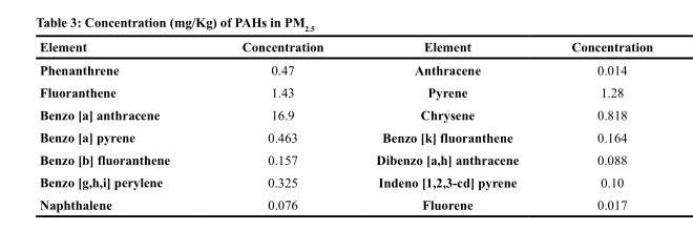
<table><thead><tr><td>Element</td><td>Concentration</td><td>Element</td><td>Concentration</td></tr></thead><tbody><tr><td>Phenanthrene</td><td>0.47</td><td>Anthracene</td><td>0.014</td></tr><tr><td>Fluoranthene</td><td>1.43</td><td>Pyrene</td><td>1.28</td></tr><tr><td>Benzo [a] anthracene</td><td>16.9</td><td>Chrysene</td><td>0.818</td></tr><tr><td>Benzo [a] pyrene</td><td>0.463</td><td>Benzo [k] fluoranthene</td><td>0.164</td></tr><tr><td>Benzo [b] fluoranthene</td><td>0.157</td><td>Dibenzo [a,h] anthracene</td><td>0.088</td></tr><tr><td>Benzo [g,h,i] perylene</td><td>0.325</td><td>Indeno [1,2,3-cd] pyrene</td><td>0.10</td></tr><tr><td>Naphthalene</td><td>0.076</td><td>Fluorene</td><td>0.017</td></tr></tbody></table>